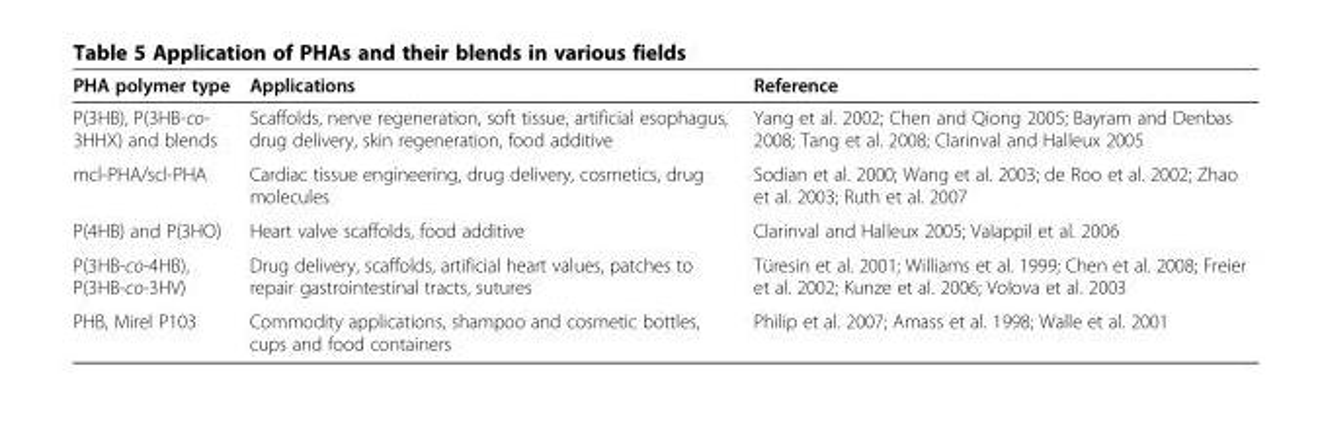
<table><thead><tr><td>PHA polymer type</td><td>Applications</td><td>Reference</td></tr></thead><tbody><tr><td>P(3HB), P(3HB-co- 3HHX) and blends</td><td>Scaffolds, nerve regeneration, soft tissue, artificial esophagus, drug delivery, skin regeneration, food additive</td><td>Yang et al. 2002; Chen and Qiong 2005; Bayram and Denbas 2008; Tang et al. 2008; Clarinval and Halleux 2005</td></tr><tr><td>mcl-PHA/scl-PHA</td><td>Cardiac tissue engineering, drug delivery, cosmetics, drug molecules</td><td>Sodian et al. 2000; Wang et al. 2003; de Roo et al. 2002; Zhao et al. 2003; Ruth et al. 2007</td></tr><tr><td>P(4HB) and P(3HO)</td><td>Heart valve scaffolds, food additive</td><td>Clarinval and Halleux 2005; Valappil et al. 2006</td></tr><tr><td>P(3HB-co-4HB), P(3HB-co-3HV)</td><td>Drug delivery, scaffolds, artificial heart values, patches to repair gastrointestinal tracts, sutures</td><td>Türesin et al. 2001; Williams et al. 1999; Chen et al. 2008; Freier et al. 2002; Kunze et al. 2006; Volova et al. 2003</td></tr><tr><td>PHB, Mirel P103</td><td>Commodity applications, shampoo and cosmetic bottles, cups and food containers</td><td>Philip et al. 2007; Amass et al. 1998; Walle et al. 2001</td></tr></tbody></table>